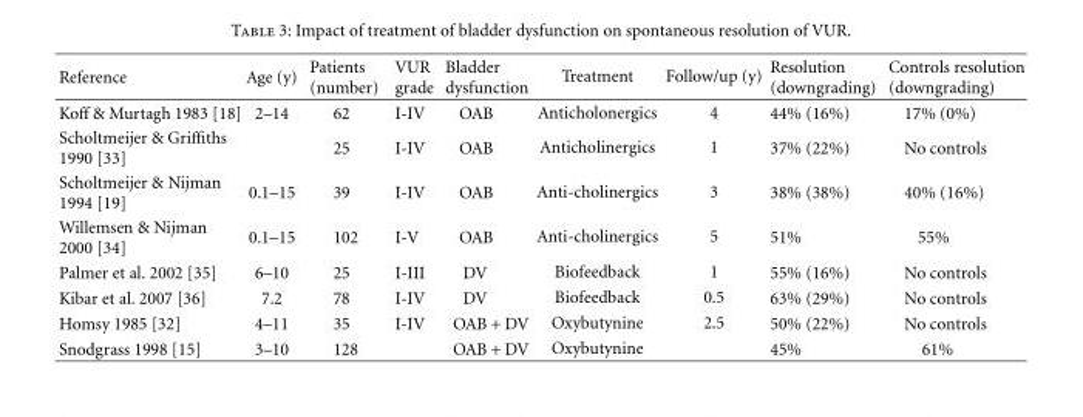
<table><thead><tr><td>Reference</td><td>Age (y)</td><td>Patients (number)</td><td>VUR grade</td><td>Bladder dysfunction</td><td>Treatment</td><td>Follow/up (y)</td><td>Resolution (downgrading)</td><td>Controls resolution (downgrading)</td></tr></thead><tbody><tr><td>Koff &amp; Murtagh 1983 [18]</td><td>2–14</td><td>62</td><td>I-IV</td><td>OAB</td><td>Anticholonergics</td><td>4</td><td>44% (16%)</td><td>17% (0%)</td></tr><tr><td>Scholtmeijer &amp; Griffiths 1990 [33]</td><td></td><td>25</td><td>I-IV</td><td>OAB</td><td>Anticholinergics</td><td>1</td><td>37% (22%)</td><td>No controls</td></tr><tr><td>Scholtmeijer &amp; Nijman 1994 [19]</td><td>0.1–15</td><td>39</td><td>I-IV</td><td>OAB</td><td>Anti-cholinergics</td><td>3</td><td>38% (38%)</td><td>40% (16%)</td></tr><tr><td>Willemsen &amp; Nijman 2000 [34]</td><td>0.1–15</td><td>102</td><td>I-V</td><td>OAB</td><td>Anti-cholinergics</td><td>5</td><td>51%</td><td>55%</td></tr><tr><td>Palmer et al. 2002 [35]</td><td>6–10</td><td>25</td><td>I-III</td><td>DV</td><td>Biofeedback</td><td>1</td><td>55% (16%)</td><td>No controls</td></tr><tr><td>Kibar et al. 2007 [36]</td><td>7.2</td><td>78</td><td>I-IV</td><td>DV</td><td>Biofeedback</td><td>0.5</td><td>63% (29%)</td><td>No controls</td></tr><tr><td>Homsy 1985 [32]</td><td>4–11</td><td>35</td><td>I-IV</td><td>OAB + DV</td><td>Oxybutynine</td><td>2.5</td><td>50% (22%)</td><td>No controls</td></tr><tr><td>Snodgrass 1998 [15]</td><td>3–10</td><td>128</td><td></td><td>OAB + DV</td><td>Oxybutynine</td><td></td><td>45%</td><td>61%</td></tr></tbody></table>